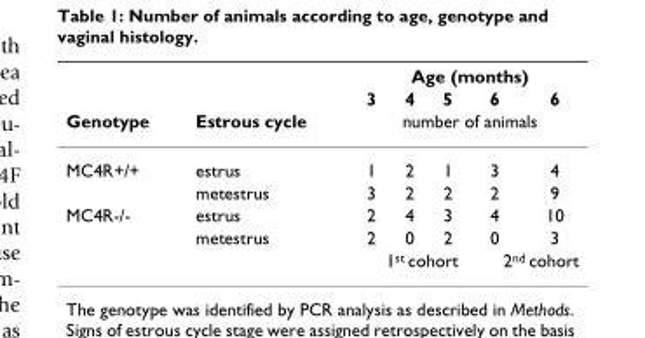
<table><thead><tr><td rowspan="3">Genotype</td><td rowspan="3">Estrous cycle</td><td colspan="5">Age (months)</td></tr><tr><td>3</td><td>4</td><td>5</td><td>6</td><td>6</td></tr><tr><td colspan="5">number of animals</td></tr></thead><tbody><tr><td rowspan="2">MC4R+/+</td><td>estrus</td><td>1</td><td>2</td><td>1</td><td>3</td><td>4</td></tr><tr><td>metestrus</td><td>3</td><td>2</td><td>2</td><td>2</td><td>9</td></tr><tr><td rowspan="3">MC4R-/-</td><td>estrus</td><td>2</td><td>4</td><td>3</td><td>4</td><td>10</td></tr><tr><td>metestrus</td><td>2</td><td>0</td><td>2</td><td>0</td><td>3</td></tr><tr><td></td><td colspan="3">1<sup>st</sup> cohort</td><td colspan="2">2<sup>nd</sup> cohort</td></tr></tbody></table>